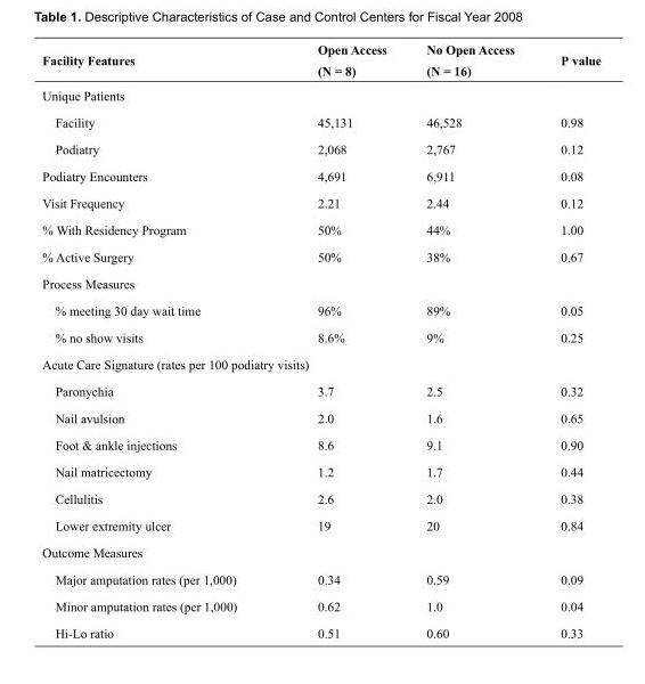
<table><thead><tr><td rowspan="2">Facility Features</td><td rowspan="2">Open Access (N = 8)</td><td rowspan="2">No Open Access (N = 16)</td><td rowspan="2">P value</td></tr><tr></tr></thead><tbody><tr><td colspan="4">Unique Patients</td></tr><tr><td>Facility</td><td>45,131</td><td>46,528</td><td>0.98</td></tr><tr><td>Podiatry</td><td>2,068</td><td>2,767</td><td>0.12</td></tr><tr><td>Podiatry Encounters</td><td>4,691</td><td>6,911</td><td>0.08</td></tr><tr><td>Visit Frequency</td><td>2.21</td><td>2.44</td><td>0.12</td></tr><tr><td>% With Residency Program</td><td>50%</td><td>44%</td><td>1.00</td></tr><tr><td>% Active Surgery</td><td>50%</td><td>38%</td><td>0.67</td></tr><tr><td colspan="4">Process Measures</td></tr><tr><td>% meeting 30 day wait time</td><td>96%</td><td>89%</td><td>0.05</td></tr><tr><td>% no show visits</td><td>8.6%</td><td>9%</td><td>0.25</td></tr><tr><td colspan="4">Acute Care Signature (rates per 100 podiatry visits)</td></tr><tr><td>Paronychia</td><td>3.7</td><td>2.5</td><td>0.32</td></tr><tr><td>Nail avulsion</td><td>2.0</td><td>1.6</td><td>0.65</td></tr><tr><td>Foot &amp; ankle injections</td><td>8.6</td><td>9.1</td><td>0.90</td></tr><tr><td>Nail matricectomy</td><td>1.2</td><td>1.7</td><td>0.44</td></tr><tr><td>Cellulitis</td><td>2.6</td><td>2.0</td><td>0.38</td></tr><tr><td>Lower extremity ulcer</td><td>19</td><td>20</td><td>0.84</td></tr><tr><td colspan="4">Outcome Measures</td></tr><tr><td>Major amputation rates (per 1,000)</td><td>0.34</td><td>0.59</td><td>0.09</td></tr><tr><td>Minor amputation rates (per 1,000)</td><td>0.62</td><td>1.0</td><td>0.04</td></tr><tr><td>Hi-Lo ratio</td><td>0.51</td><td>0.60</td><td>0.33</td></tr></tbody></table>